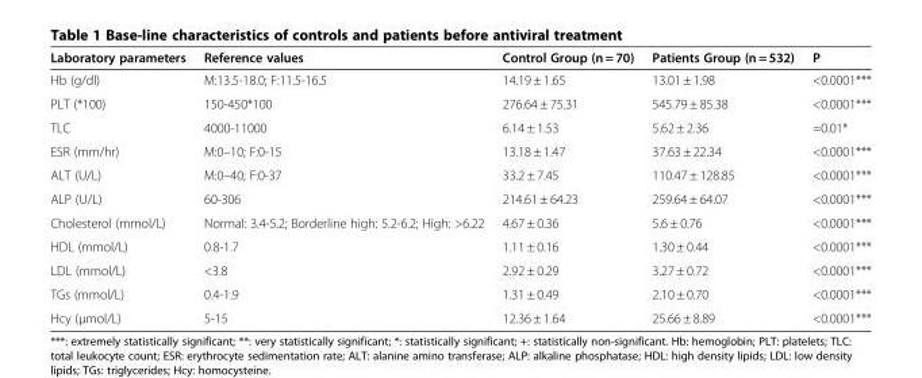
<table><thead><tr><td>Laboratory parameters</td><td>Reference values</td><td>Control Group (n = 70)</td><td>Patients Group (n = 532)</td><td>P</td></tr></thead><tbody><tr><td>Hb (g/dl)</td><td>M:13.5-18.0; F:11.5-16.5</td><td>14.19 ± 1.65</td><td>13.01 ± 1.98</td><td>&lt;0.0001***</td></tr><tr><td>PLT (*100)</td><td>150-450*100</td><td>276.64 ± 75.31</td><td>545.79 ± 85.38</td><td>&lt;0.0001***</td></tr><tr><td>TLC</td><td>4000-11000</td><td>6.14 ± 1.53</td><td>5.62 ± 2.36</td><td>=0.01*</td></tr><tr><td>ESR (mm/hr)</td><td>M:0–10; F:0-15</td><td>13.18 ± 1.47</td><td>37.63 ± 22.34</td><td>&lt;0.0001***</td></tr><tr><td>ALT (U/L)</td><td>M:0–40; F:0-37</td><td>33.2 ± 7.45</td><td>110.47 ± 128.85</td><td>&lt;0.0001***</td></tr><tr><td>ALP (U/L)</td><td>60-306</td><td>214.61 ± 64.23</td><td>259.64 ± 64.07</td><td>&lt;0.0001***</td></tr><tr><td>Cholesterol (mmol/L)</td><td>Normal: 3.4-5.2; Borderline high: 5.2-6.2; High: &gt;6.22</td><td>4.67 ± 0.36</td><td>5.6 ± 0.76</td><td>&lt;0.0001***</td></tr><tr><td>HDL (mmol/L)</td><td>0.8-1.7</td><td>1.11 ± 0.16</td><td>1.30 ± 0.44</td><td>&lt;0.0001***</td></tr><tr><td>LDL (mmol/L)</td><td>&lt;3.8</td><td>2.92 ± 0.29</td><td>3.27 ± 0.72</td><td>&lt;0.0001***</td></tr><tr><td>TGs (mmol/L)</td><td>0.4-1.9</td><td>1.31 ± 0.49</td><td>2.10 ± 0.70</td><td>&lt;0.0001***</td></tr><tr><td>Hcy (μmol/L)</td><td>5-15</td><td>12.36 ± 1.64</td><td>25.66 ± 8.89</td><td>&lt;0.0001***</td></tr></tbody></table>